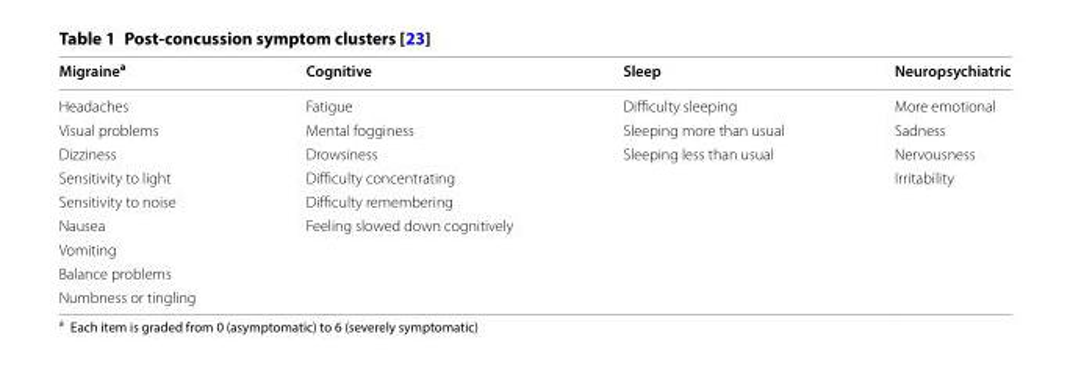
<table><thead><tr><td>Migraine<sup>a</sup></td><td>Cognitive</td><td>Sleep</td><td>Neuropsychiatric</td></tr></thead><tbody><tr><td>Headaches</td><td>Fatigue</td><td>Difficulty sleeping</td><td>More emotional</td></tr><tr><td>Visual problems</td><td>Mental fogginess</td><td>Sleeping more than usual</td><td>Sadness</td></tr><tr><td>Dizziness</td><td>Drowsiness</td><td>Sleeping less than usual</td><td>Nervousness</td></tr><tr><td>Sensitivity to light</td><td>Difficulty concentrating</td><td></td><td>Irritability</td></tr><tr><td>Sensitivity to noise</td><td>Difficulty remembering</td><td></td><td></td></tr><tr><td>Nausea</td><td rowspan="2">Feeling slowed down cognitively</td><td rowspan="2"></td><td rowspan="2"></td></tr><tr><td>Vomiting</td></tr><tr><td colspan="4">Balance problems</td></tr><tr><td>Numbness or tingling</td><td></td><td></td><td></td></tr></tbody></table>